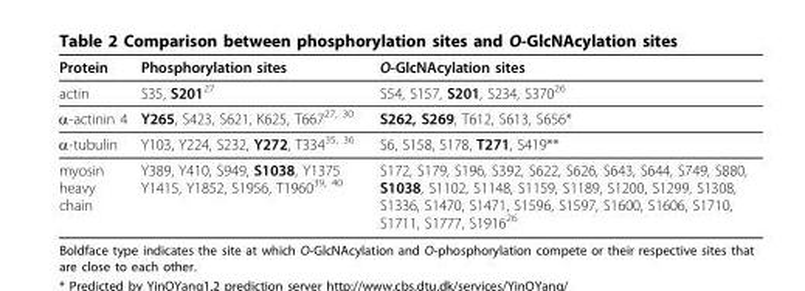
<table><thead><tr><td>Protein</td><td>Phosphorylation sites</td><td>O-GlcNAcylation sites</td></tr></thead><tbody><tr><td>actin</td><td>S35, S201<sup>27</sup></td><td>S54, S157, S201, S234, S370<sup>26</sup></td></tr><tr><td>α-actinin 4</td><td>Y265, S423, S621, K625, T667<sup>27, 30</sup></td><td>S262, S269, T612, S613, S656*</td></tr><tr><td>α-tubulin</td><td>Y103, Y224, S232, Y272, T334<sup>35, 36</sup></td><td>S6, S158, S178, T271, S419**</td></tr><tr><td>myosin heavy chain</td><td>Y389, Y410, S949, S1038, Y1375 Y1415, Y1852, S1956, T1960<sup>39, 40</sup></td><td>S172, S179, S196, S392, S622, S626, S643, S644, S749, S880, S1038, S1102, S1148, S1159, S1189, S1200, S1299, S1308, S1336, S1470, S1471, S1596, S1597, S1600, S1606, S1710, S1711, S1777, S1916<sup>26</sup></td></tr></tbody></table>